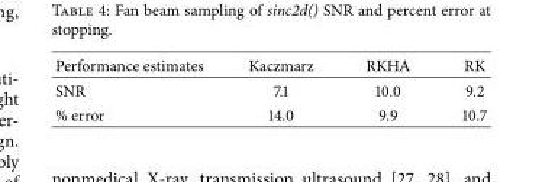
<table><thead><tr><td>Performance estimates</td><td>Kaczmarz</td><td>RKHA</td><td>RK</td></tr></thead><tbody><tr><td>SNR</td><td>7.1</td><td>10.0</td><td>9.2</td></tr><tr><td>% error</td><td>14.0</td><td>9.9</td><td>10.7</td></tr></tbody></table>